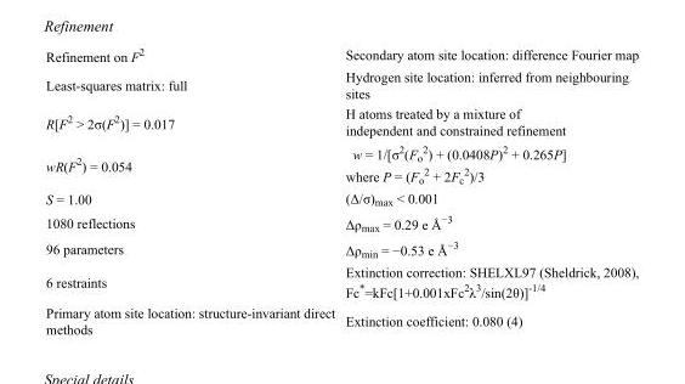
<table><tbody><tr><td>Refinement on F<sup>2</sup></td><td>Secondary atom site location: difference Fourier map</td></tr><tr><td>Least-squares matrix: full</td><td>Hydrogen site location: inferred from neighbouring sites</td></tr><tr><td>R[F<sup>2</sup> &gt; 2σ(F<sup>2</sup>)] = 0.017</td><td>H atoms treated by a mixture of independent and constrained refinement</td></tr><tr><td>wR(F<sup>2</sup>) = 0.054</td><td>w = 1/[σ<sup>2</sup>(F<sub>o</sub> <sup>2</sup>) + (0.0408P)<sup>2</sup> + 0.265P] where P = (F<sub>o</sub> <sup>2</sup> + 2F<sub>c</sub> <sup>2</sup>)/3</td></tr><tr><td>S = 1.00</td><td>(Δ/σ)<sub>max</sub> &lt; 0.001</td></tr><tr><td>1080 reflections</td><td>Δρ<sub>max</sub> = 0.29 e Å<sup>−3</sup></td></tr><tr><td>96 parameters</td><td>Δρ<sub>min</sub> = −0.53 e Å<sup>−3</sup></td></tr><tr><td>6 restraints</td><td>Extinction correction: SHELXL97 (Sheldrick, 2008), Fc*=kFc[1+0.001xFc<sup>2</sup>λ<sup>3</sup>/sin(2θ)]<sup>-1/4</sup></td></tr><tr><td>Primary atom site location: structure-invariant direct methods</td><td>Extinction coefficient: 0.080 (4)</td></tr></tbody></table>